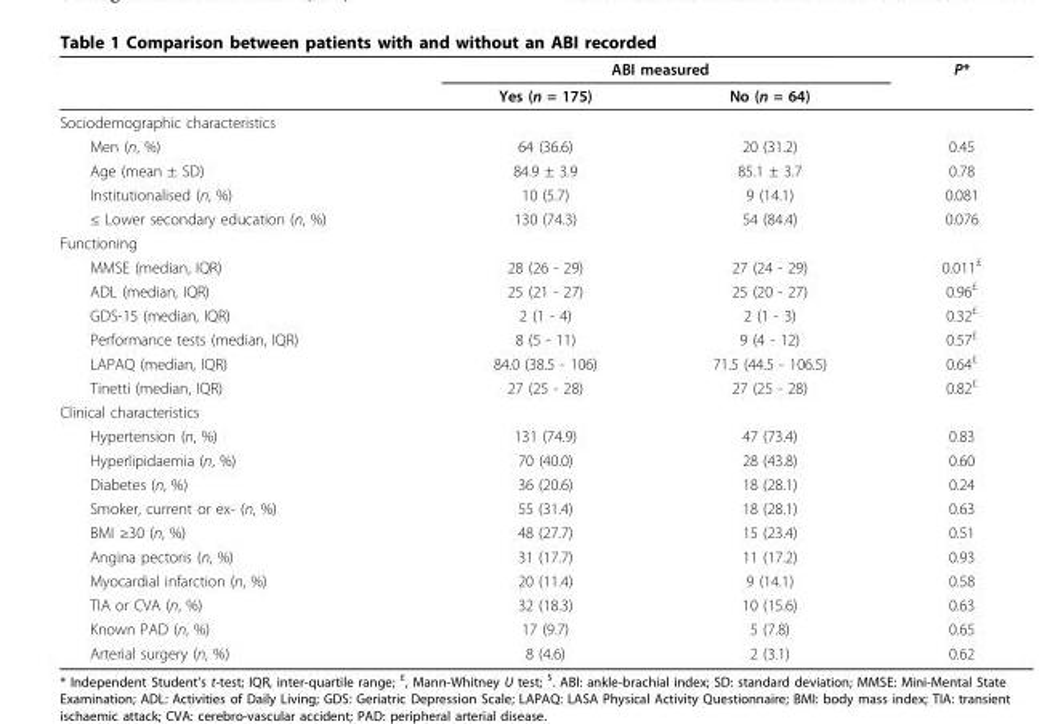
<table><thead><tr><td rowspan="2"></td><td colspan="2">ABI measured</td><td rowspan="2">P*</td></tr><tr><td>Yes (n = 175)</td><td>No (n = 64)</td></tr></thead><tbody><tr><td colspan="4">Sociodemographic characteristics</td></tr><tr><td>Men (n, %)</td><td>64 (36.6)</td><td>20 (31.2)</td><td>0.45</td></tr><tr><td>Age (mean ± SD)</td><td>84.9 ± 3.9</td><td>85.1 ± 3.7</td><td>0.78</td></tr><tr><td>Institutionalised (n, %)</td><td>10 (5.7)</td><td>9 (14.1)</td><td>0.081</td></tr><tr><td>≤ Lower secondary education (n, %)</td><td>130 (74.3)</td><td>54 (84.4)</td><td>0.076</td></tr><tr><td colspan="4">Functioning</td></tr><tr><td>MMSE (median, IQR)</td><td>28 (26 - 29)</td><td>27 (24 - 29)</td><td>0.011<sup>£</sup></td></tr><tr><td>ADL (median, IQR)</td><td>25 (21 - 27)</td><td>25 (20 - 27)</td><td>0.96<sup>£</sup></td></tr><tr><td>GDS-15 (median, IQR)</td><td>2 (1 - 4)</td><td>2 (1 - 3)</td><td>0.32<sup>£</sup></td></tr><tr><td>Performance tests (median, IQR)</td><td>8 (5 - 11)</td><td>9 (4 - 12)</td><td>0.57<sup>£</sup></td></tr><tr><td>LAPAQ (median, IQR)</td><td>84.0 (38.5 - 106)</td><td>71.5 (44.5 - 106.5)</td><td>0.64<sup>£</sup></td></tr><tr><td>Tinetti (median, IQR)</td><td>27 (25 - 28)</td><td>27 (25 - 28)</td><td>0.82<sup>£</sup></td></tr><tr><td colspan="4">Clinical characteristics</td></tr><tr><td>Hypertension (n, %)</td><td>131 (74.9)</td><td>47 (73.4)</td><td>0.83</td></tr><tr><td>Hyperlipidaemia (n, %)</td><td>70 (40.0)</td><td>28 (43.8)</td><td>0.60</td></tr><tr><td>Diabetes (n, %)</td><td>36 (20.6)</td><td>18 (28.1)</td><td>0.24</td></tr><tr><td>Smoker, current or ex- (n, %)</td><td>55 (31.4)</td><td>18 (28.1)</td><td>0.63</td></tr><tr><td>BMI ≥30 (n, %)</td><td>48 (27.7)</td><td>15 (23.4)</td><td>0.51</td></tr><tr><td>Angina pectoris (n, %)</td><td>31 (17.7)</td><td>11 (17.2)</td><td>0.93</td></tr><tr><td>Myocardial infarction (n, %)</td><td>20 (11.4)</td><td>9 (14.1)</td><td>0.58</td></tr><tr><td>TIA or CVA (n, %)</td><td>32 (18.3)</td><td>10 (15.6)</td><td>0.63</td></tr><tr><td>Known PAD (n, %)</td><td>17 (9.7)</td><td>5 (7.8)</td><td>0.65</td></tr><tr><td>Arterial surgery (n, %)</td><td>8 (4.6)</td><td>2 (3.1)</td><td>0.62</td></tr></tbody></table>